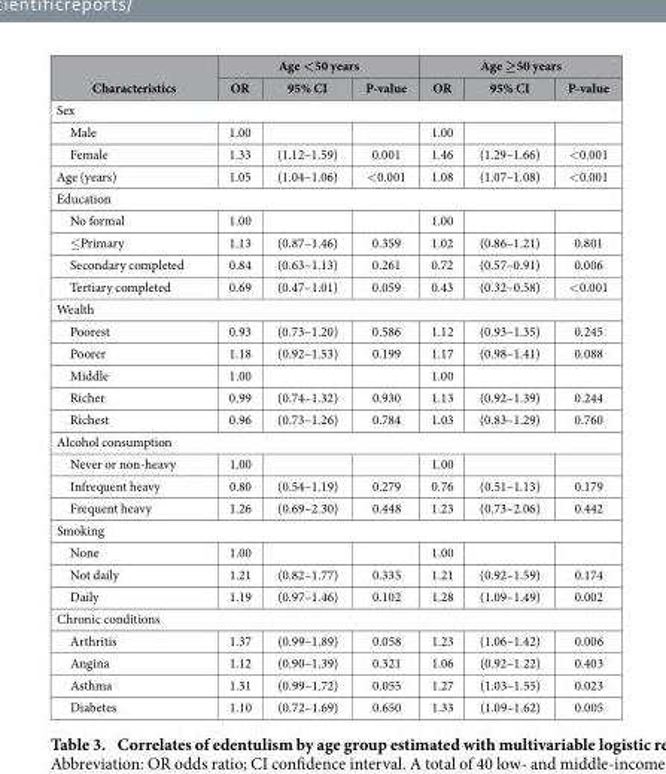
<table><thead><tr><td rowspan="2">Characteristics</td><td colspan="3">Age &lt;50 years</td><td colspan="3">Age ≥50 years</td></tr><tr><td>OR</td><td>95% CI</td><td>P-value</td><td>OR</td><td>95% CI</td><td>P-value</td></tr></thead><tbody><tr><td colspan="7">Sex</td></tr><tr><td>Male</td><td>1.00</td><td></td><td></td><td>1.00</td><td></td><td></td></tr><tr><td>Female</td><td>1.33</td><td>(1.12–1.59)</td><td>0.001</td><td>1.46</td><td>(1.29–1.66)</td><td>&lt; 0.001</td></tr><tr><td>Age (years)</td><td>1.05</td><td>(1.04–1.06)</td><td>&lt; 0.001</td><td>1.08</td><td>(1.07–1.08)</td><td>&lt; 0.001</td></tr><tr><td colspan="7">Education</td></tr><tr><td>No formal</td><td>1.00</td><td></td><td></td><td>1.00</td><td></td><td></td></tr><tr><td>≤ Primary</td><td>1.13</td><td>(0.87–1.46)</td><td>0.359</td><td>1.02</td><td>(0.86–1.21)</td><td>0.801</td></tr><tr><td>Secondary completed</td><td>0.84</td><td>(0.63–1.13)</td><td>0.261</td><td>0.72</td><td>(0.57–0.91)</td><td>0.006</td></tr><tr><td>Tertiary completed</td><td>0.69</td><td>(0.47–1.01)</td><td>0.059</td><td>0.43</td><td>(0.32–0.58)</td><td>&lt; 0.001</td></tr><tr><td colspan="7">Wealth</td></tr><tr><td>Poorest</td><td>0.93</td><td>(0.73–1.20)</td><td>0.586</td><td>1.12</td><td>(0.93–1.35)</td><td>0.245</td></tr><tr><td>Poorer</td><td>1.18</td><td>(0.92–1.53)</td><td>0.199</td><td>1.17</td><td>(0.98–1.41)</td><td>0.088</td></tr><tr><td>Middle</td><td>1.00</td><td></td><td></td><td>1.00</td><td></td><td></td></tr><tr><td>Richer</td><td>0.99</td><td>(0.74–1.32)</td><td>0.930</td><td>1.13</td><td>(0.92–1.39)</td><td>0.244</td></tr><tr><td>Richest</td><td>0.96</td><td>(0.73–1.26)</td><td>0.784</td><td>1.03</td><td>(0.83–1.29)</td><td>0.760</td></tr><tr><td colspan="7">Alcohol consumption</td></tr><tr><td>Never or non-heavy</td><td>1.00</td><td></td><td></td><td>1.00</td><td></td><td></td></tr><tr><td>Infrequent heavy</td><td>0.80</td><td>(0.54–1.19)</td><td>0.279</td><td>0.76</td><td>(0.51–1.13)</td><td>0.179</td></tr><tr><td>Frequent heavy</td><td>1.26</td><td>(0.69–2.30)</td><td>0.448</td><td>1.23</td><td>(0.73–2.06)</td><td>0.442</td></tr><tr><td colspan="7">Smoking</td></tr><tr><td>None</td><td>1.00</td><td></td><td></td><td>1.00</td><td></td><td></td></tr><tr><td>Not daily</td><td>1.21</td><td>(0.82–1.77)</td><td>0.335</td><td>1.21</td><td>(0.92–1.59)</td><td>0.174</td></tr><tr><td>Daily</td><td>1.19</td><td>(0.97–1.46)</td><td>0.102</td><td>1.28</td><td>(1.09–1.49)</td><td>0.002</td></tr><tr><td colspan="7">Chronic conditions</td></tr><tr><td>Arthritis</td><td>1.37</td><td>(0.99–1.89)</td><td>0.058</td><td>1.23</td><td>(1.06–1.42)</td><td>0.006</td></tr><tr><td>Angina</td><td>1.12</td><td>(0.90–1.39)</td><td>0.321</td><td>1.06</td><td>(0.92–1.22)</td><td>0.403</td></tr><tr><td>Asthma</td><td>1.31</td><td>(0.99–1.72)</td><td>0.055</td><td>1.27</td><td>(1.03–1.55)</td><td>0.023</td></tr><tr><td>Diabetes</td><td>1.10</td><td>(0.72–1.69)</td><td>0.650</td><td>1.33</td><td>(1.09–1.62)</td><td>0.005</td></tr></tbody></table>